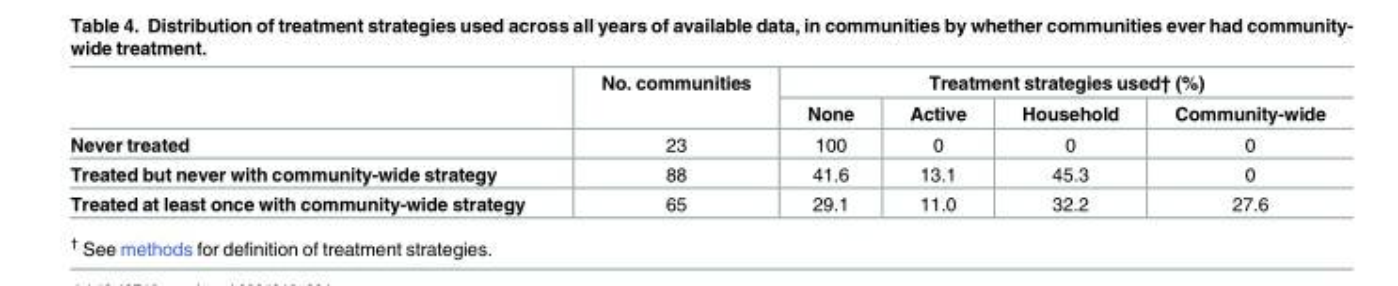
<table><thead><tr><td rowspan="2"></td><td rowspan="2">No. communities</td><td colspan="4">Treatment strategies used† (%)</td></tr><tr><td>None</td><td>Active</td><td>Household</td><td>Community-wide</td></tr></thead><tbody><tr><td>Never treated</td><td>23</td><td>100</td><td>0</td><td>0</td><td>0</td></tr><tr><td>Treated but never with community-wide strategy</td><td>88</td><td>41.6</td><td>13.1</td><td>45.3</td><td>0</td></tr><tr><td>Treated at least once with community-wide strategy</td><td>65</td><td>29.1</td><td>11.0</td><td>32.2</td><td>27.6</td></tr></tbody></table>